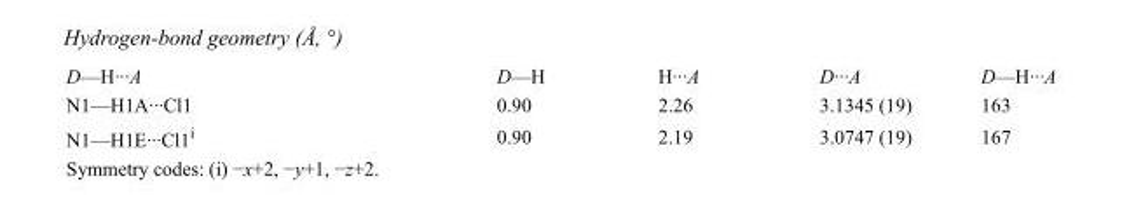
<table><tbody><tr><td>D—H···A</td><td>D—H</td><td>H···A</td><td>D···A</td><td>D—H···A</td></tr><tr><td>N1—H1A···Cl1</td><td>0.90</td><td>2.26</td><td>3.1345 (19)</td><td>163</td></tr><tr><td>N1—H1E···Cl1<sup>i</sup></td><td>0.90</td><td>2.19</td><td>3.0747 (19)</td><td>167</td></tr></tbody></table>